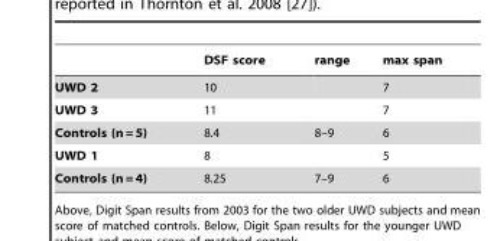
<table><thead><tr><td></td><td>DSF score</td><td>range</td><td>max span</td></tr></thead><tbody><tr><td>UWD 2</td><td>10</td><td></td><td>7</td></tr><tr><td>UWD 3</td><td>11</td><td></td><td>7</td></tr><tr><td>Controls (n = 5)</td><td>8.4</td><td>8–9</td><td>6</td></tr><tr><td>UWD 1</td><td>8</td><td></td><td>5</td></tr><tr><td>Controls (n = 4)</td><td>8.25</td><td>7–9</td><td>6</td></tr></tbody></table>